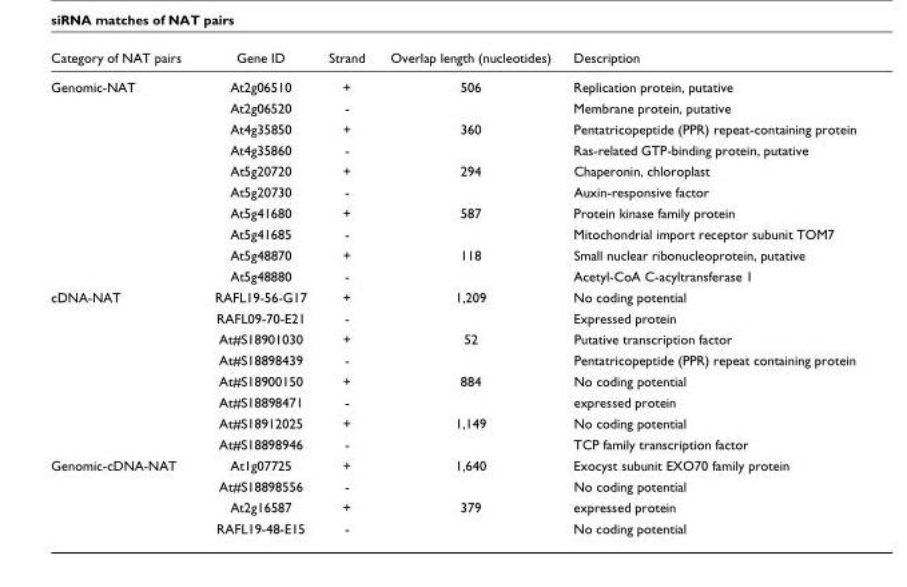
<table><thead><tr><td>Category of NAT pairs</td><td>Gene ID</td><td>Strand</td><td>Overlap length (nucleotides)</td><td>Description</td></tr></thead><tbody><tr><td rowspan="10">Genomic-NAT</td><td>At2g06510</td><td>+</td><td>506</td><td>Replication protein, putative</td></tr><tr><td>At2g06520</td><td>-</td><td></td><td>Membrane protein, putative</td></tr><tr><td>At4g35850</td><td>+</td><td>360</td><td>Pentatricopeptide (PPR) repeat-containing protein</td></tr><tr><td>At4g35860</td><td>-</td><td></td><td>Ras-related GTP-binding protein, putative</td></tr><tr><td>At5g20720</td><td>+</td><td>294</td><td>Chaperonin, chloroplast</td></tr><tr><td>At5g20730</td><td>-</td><td></td><td>Auxin-responsive factor</td></tr><tr><td>At5g41680</td><td>+</td><td>587</td><td>Protein kinase family protein</td></tr><tr><td>At5g41685</td><td>-</td><td></td><td>Mitochondrial import receptor subunit TOM7</td></tr><tr><td>At5g48870</td><td>+</td><td>118</td><td>Small nuclear ribonucleoprotein, putative</td></tr><tr><td>At5g48880</td><td>-</td><td></td><td>Acetyl-CoA C-acyltransferase 1</td></tr><tr><td rowspan="8">cDNA-NAT</td><td>RAFL19-56-G17</td><td>+</td><td>1,209</td><td>No coding potential</td></tr><tr><td>RAFL09-70-E21</td><td>-</td><td></td><td>Expressed protein</td></tr><tr><td>At#S18901030</td><td>+</td><td>52</td><td>Putative transcription factor</td></tr><tr><td>At#S18898439</td><td>-</td><td></td><td>Pentatricopeptide (PPR) repeat containing protein</td></tr><tr><td>At#S18900150</td><td>+</td><td>884</td><td>No coding potential</td></tr><tr><td>At#S18898471</td><td>-</td><td></td><td>expressed protein</td></tr><tr><td>At#S18912025</td><td>+</td><td>1,149</td><td>No coding potential</td></tr><tr><td>At#S18898946</td><td>-</td><td></td><td>TCP family transcription factor</td></tr><tr><td rowspan="4">Genomic-cDNA-NAT</td><td>At1g07725</td><td>+</td><td>1,640</td><td>Exocyst subunit EXO70 family protein</td></tr><tr><td>At#S18898556</td><td>-</td><td></td><td>No coding potential</td></tr><tr><td>At2g16587</td><td>+</td><td>379</td><td>expressed protein</td></tr><tr><td>RAFL19-48-E15</td><td>-</td><td></td><td>No coding potential</td></tr></tbody></table>